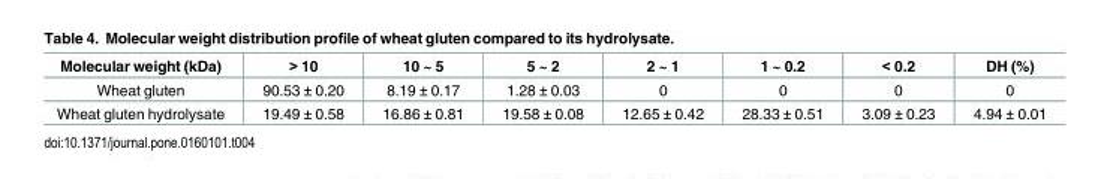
<table><thead><tr><td>Molecular weight (kDa)</td><td>&gt; 10</td><td>10 ~ 5</td><td>5 ~ 2</td><td>2 ~ 1</td><td>1 ~ 0.2</td><td>&lt; 0.2</td><td>DH (%)</td></tr></thead><tbody><tr><td>Wheat gluten</td><td>90.53 ± 0.20</td><td>8.19 ± 0.17</td><td>1.28 ± 0.03</td><td>0</td><td>0</td><td>0</td><td>0</td></tr><tr><td>Wheat gluten hydrolysate</td><td>19.49 ± 0.58</td><td>16.86 ± 0.81</td><td>19.58 ± 0.08</td><td>12.65 ± 0.42</td><td>28.33 ± 0.51</td><td>3.09 ± 0.23</td><td>4.94 ± 0.01</td></tr></tbody></table>